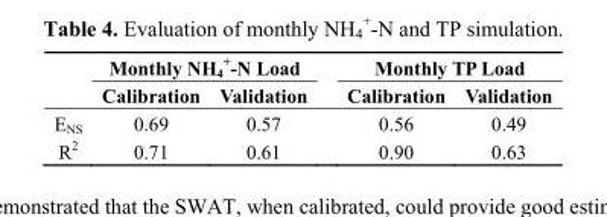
<table><thead><tr><td rowspan="2"></td><td colspan="2">Monthly NH<sub>4</sub> <sup>+</sup>-N Load</td><td colspan="2">Monthly TP Load</td></tr><tr><td>Calibration</td><td>Validation</td><td>Calibration</td><td>Validation</td></tr></thead><tbody><tr><td>E<sub>NS</sub></td><td>0.69</td><td>0.57</td><td>0.56</td><td>0.49</td></tr><tr><td>R<sup>2</sup></td><td>0.71</td><td>0.61</td><td>0.90</td><td>0.63</td></tr></tbody></table>